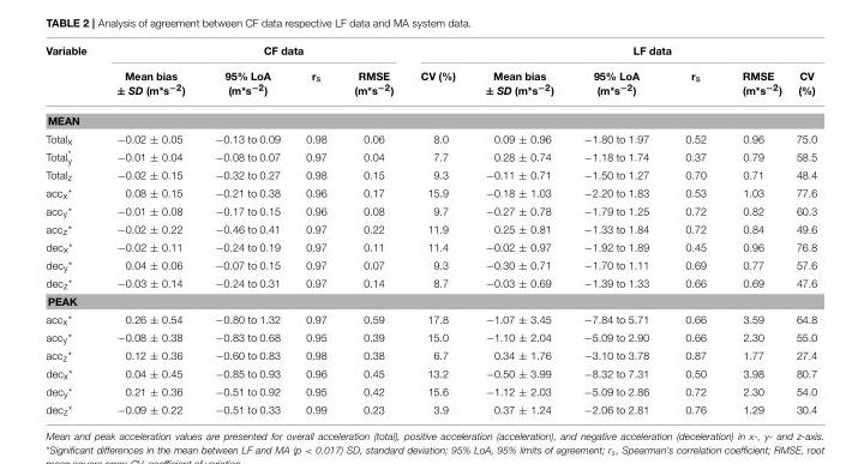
<table><thead><tr><td rowspan="2">Variable</td><td colspan="5">CF data</td><td colspan="5">LF data</td></tr><tr><td>Mean bias ± SD (m*s<sup>−2</sup>)</td><td>95% LoA (m*s<sup>−2</sup>)</td><td>r<sub>s</sub></td><td>RMSE (m*s<sup>−2</sup>)</td><td>CV (%)</td><td>Mean bias ± SD (m*s<sup>−2</sup>)</td><td>95% LoA (m*s<sup>−2</sup>)</td><td>r<sub>s</sub></td><td>RMSE (m*s<sup>−2</sup>)</td><td>CV (%)</td></tr></thead><tbody><tr><td colspan="11">MEAN</td></tr><tr><td>Total<sub>x</sub></td><td>−0.02 ± 0.05</td><td>−0.13 to 0.09</td><td>0.98</td><td>0.06</td><td>8.0</td><td>0.09 ± 0.96</td><td>−1.80 to 1.97</td><td>0.52</td><td>0.96</td><td>75.0</td></tr><tr><td>Total*y</td><td>−0.01 ± 0.04</td><td>−0.08 to 0.07</td><td>0.97</td><td>0.04</td><td>7.7</td><td>0.28 ± 0.74</td><td>−1.18 to 1.74</td><td>0.37</td><td>0.79</td><td>58.5</td></tr><tr><td>Total<sub>z</sub></td><td>−0.02 ± 0.15</td><td>−0.32 to 0.27</td><td>0.98</td><td>0.15</td><td>9.3</td><td>−0.11 ± 0.71</td><td>−1.50 to 1.27</td><td>0.70</td><td>0.71</td><td>48.4</td></tr><tr><td>acc<sub>x</sub>*</td><td>0.08 ± 0.15</td><td>−0.21 to 0.38</td><td>0.96</td><td>0.17</td><td>15.9</td><td>−0.18 ± 1.03</td><td>−2.20 to 1.83</td><td>0.53</td><td>1.03</td><td>77.6</td></tr><tr><td>acc<sub>y</sub>*</td><td>−0.01 ± 0.08</td><td>−0.17 to 0.15</td><td>0.96</td><td>0.08</td><td>9.7</td><td>−0.27 ± 0.78</td><td>−1.79 to 1.25</td><td>0.72</td><td>0.82</td><td>60.3</td></tr><tr><td>acc<sub>z</sub>*</td><td>−0.02 ± 0.22</td><td>−0.46 to 0.41</td><td>0.97</td><td>0.22</td><td>11.9</td><td>0.25 ± 0.81</td><td>−1.33 to 1.84</td><td>0.72</td><td>0.84</td><td>49.6</td></tr><tr><td>dec<sub>x</sub>*</td><td>−0.02 ± 0.11</td><td>−0.24 to 0.19</td><td>0.97</td><td>0.11</td><td>11.4</td><td>−0.02 ± 0.97</td><td>−1.92 to 1.89</td><td>0.45</td><td>0.96</td><td>76.8</td></tr><tr><td>dec<sub>y</sub>*</td><td>0.04 ± 0.06</td><td>−0.07 to 0.15</td><td>0.97</td><td>0.07</td><td>9.3</td><td>−0.30 ± 0.71</td><td>−1.70 to 1.11</td><td>0.69</td><td>0.77</td><td>57.6</td></tr><tr><td>dec<sub>z</sub>*</td><td>−0.03 ± 0.14</td><td>−0.24 to 0.31</td><td>0.97</td><td>0.14</td><td>8.7</td><td>−0.03 ± 0.69</td><td>−1.39 to 1.33</td><td>0.66</td><td>0.69</td><td>47.6</td></tr><tr><td colspan="11">PEAK</td></tr><tr><td>acc<sub>x</sub>*</td><td>0.26 ± 0.54</td><td>−0.80 to 1.32</td><td>0.97</td><td>0.59</td><td>17.8</td><td>−1.07 ± 3.45</td><td>−7.84 to 5.71</td><td>0.66</td><td>3.59</td><td>64.8</td></tr><tr><td>acc<sub>y</sub>*</td><td>−0.08 ± 0.38</td><td>−0.83 to 0.68</td><td>0.95</td><td>0.39</td><td>15.0</td><td>−1.10 ± 2.04</td><td>−5.09 to 2.90</td><td>0.66</td><td>2.30</td><td>55.0</td></tr><tr><td>acc<sub>z</sub>*</td><td>0.12 ± 0.36</td><td>−0.60 to 0.83</td><td>0.98</td><td>0.38</td><td>6.7</td><td>0.34 ± 1.76</td><td>−3.10 to 3.78</td><td>0.87</td><td>1.77</td><td>27.4</td></tr><tr><td>dec<sub>x</sub>*</td><td>0.04 ± 0.45</td><td>−0.85 to 0.93</td><td>0.96</td><td>0.45</td><td>13.2</td><td>−0.50 ± 3.99</td><td>−8.32 to 7.31</td><td>0.50</td><td>3.98</td><td>80.7</td></tr><tr><td>dec<sub>y</sub>*</td><td>0.21 ± 0.36</td><td>−0.51 to 0.92</td><td>0.95</td><td>0.42</td><td>15.6</td><td>−1.12 ± 2.03</td><td>−5.09 to 2.86</td><td>0.72</td><td>2.30</td><td>54.0</td></tr><tr><td>dec<sub>z</sub>*</td><td>−0.09 ± 0.22</td><td>−0.51 to 0.33</td><td>0.99</td><td>0.23</td><td>3.9</td><td>0.37 ± 1.24</td><td>−2.06 to 2.81</td><td>0.76</td><td>1.29</td><td>30.4</td></tr></tbody></table>